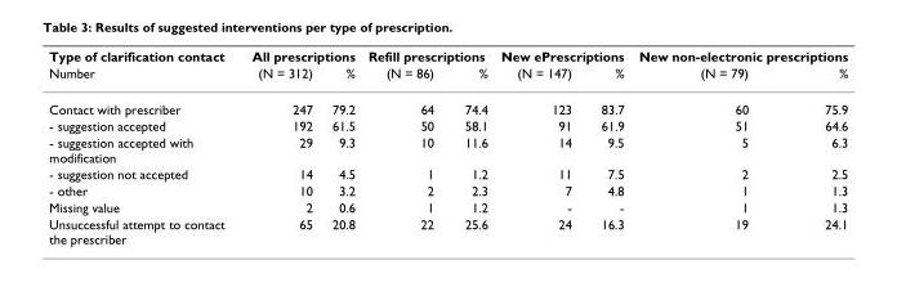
<table><thead><tr><td rowspan="2">Type of clarification contact Number</td><td colspan="2">All prescriptions</td><td colspan="2">Refill prescriptions</td><td colspan="2">New ePrescriptions</td><td colspan="2">New non-electronic prescriptions</td></tr><tr><td>(N = 312)</td><td>%</td><td>(N = 86)</td><td>%</td><td>(N = 147)</td><td>%</td><td>(N = 79)</td><td>%</td></tr></thead><tbody><tr><td>Contact with prescriber</td><td>247</td><td>79.2</td><td>64</td><td>74.4</td><td>123</td><td>83.7</td><td>60</td><td>75.9</td></tr><tr><td>- suggestion accepted</td><td>192</td><td>61.5</td><td>50</td><td>58.1</td><td>91</td><td>61.9</td><td>51</td><td>64.6</td></tr><tr><td>- suggestion accepted with modification</td><td>29</td><td>9.3</td><td>10</td><td>11.6</td><td>14</td><td>9.5</td><td>5</td><td>6.3</td></tr><tr><td>- suggestion not accepted</td><td>14</td><td>4.5</td><td>1</td><td>1.2</td><td>11</td><td>7.5</td><td>2</td><td>2.5</td></tr><tr><td>- other</td><td>10</td><td>3.2</td><td>2</td><td>2.3</td><td>7</td><td>4.8</td><td>1</td><td>1.3</td></tr><tr><td>Missing value</td><td>2</td><td>0.6</td><td>1</td><td>1.2</td><td>-</td><td>-</td><td>1</td><td>1.3</td></tr><tr><td>Unsuccessful attempt to contact the prescriber</td><td>65</td><td>20.8</td><td>22</td><td>25.6</td><td>24</td><td>16.3</td><td>19</td><td>24.1</td></tr></tbody></table>